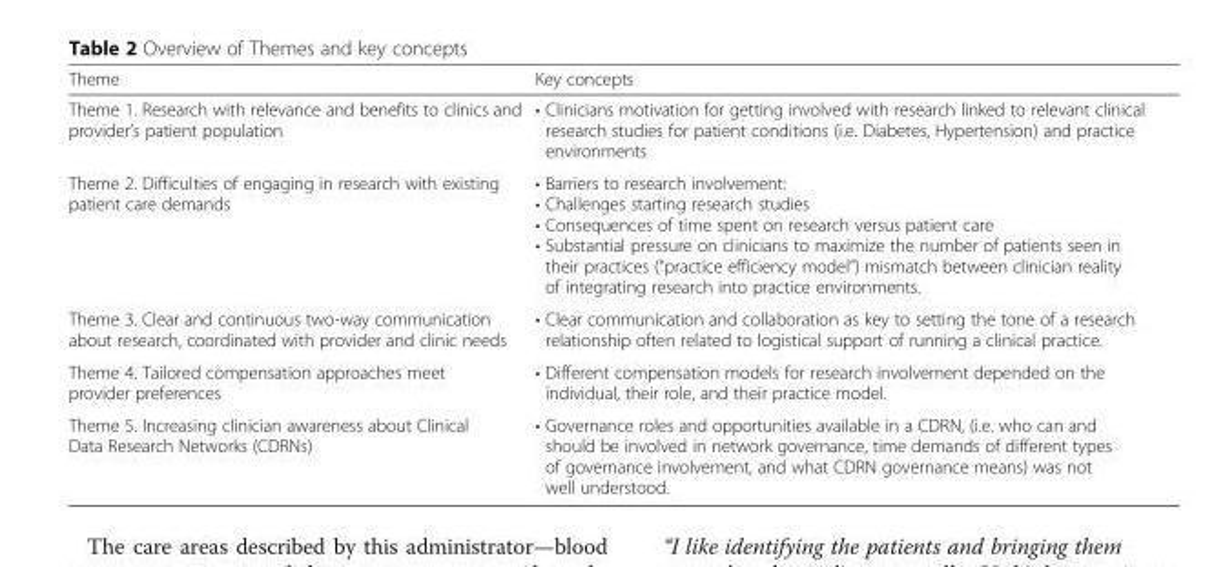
<table><thead><tr><td>Theme</td><td>Key concepts</td></tr></thead><tbody><tr><td>Theme 1. Research with relevance and benefits to clinics and provider’s patient population</td><td>• Clinicians motivation for getting involved with research linked to relevant clinical research studies for patient conditions (i.e. Diabetes, Hypertension) and practice environments</td></tr><tr><td>Theme 2. Difficulties of engaging in research with existing patient care demands</td><td>• Barriers to research involvement: • Challenges starting research studies • Consequences of time spent on research versus patient care • Substantial pressure on clinicians to maximize the number of patients seen in their practices (“practice efficiency model”) mismatch between clinician reality of integrating research into practice environments.</td></tr><tr><td>Theme 3. Clear and continuous two-way communication about research, coordinated with provider and clinic needs</td><td>• Clear communication and collaboration as key to setting the tone of a research relationship often related to logistical support of running a clinical practice.</td></tr><tr><td>Theme 4. Tailored compensation approaches meet provider preferences</td><td>• Different compensation models for research involvement depended on the individual, their role, and their practice model.</td></tr><tr><td>Theme 5. Increasing clinician awareness about Clinical Data Research Networks (CDRNs)</td><td>• Governance roles and opportunities available in a CDRN, (i.e. who can and should be involved in network governance, time demands of different types of governance involvement, and what CDRN governance means) was not well understood.</td></tr></tbody></table>